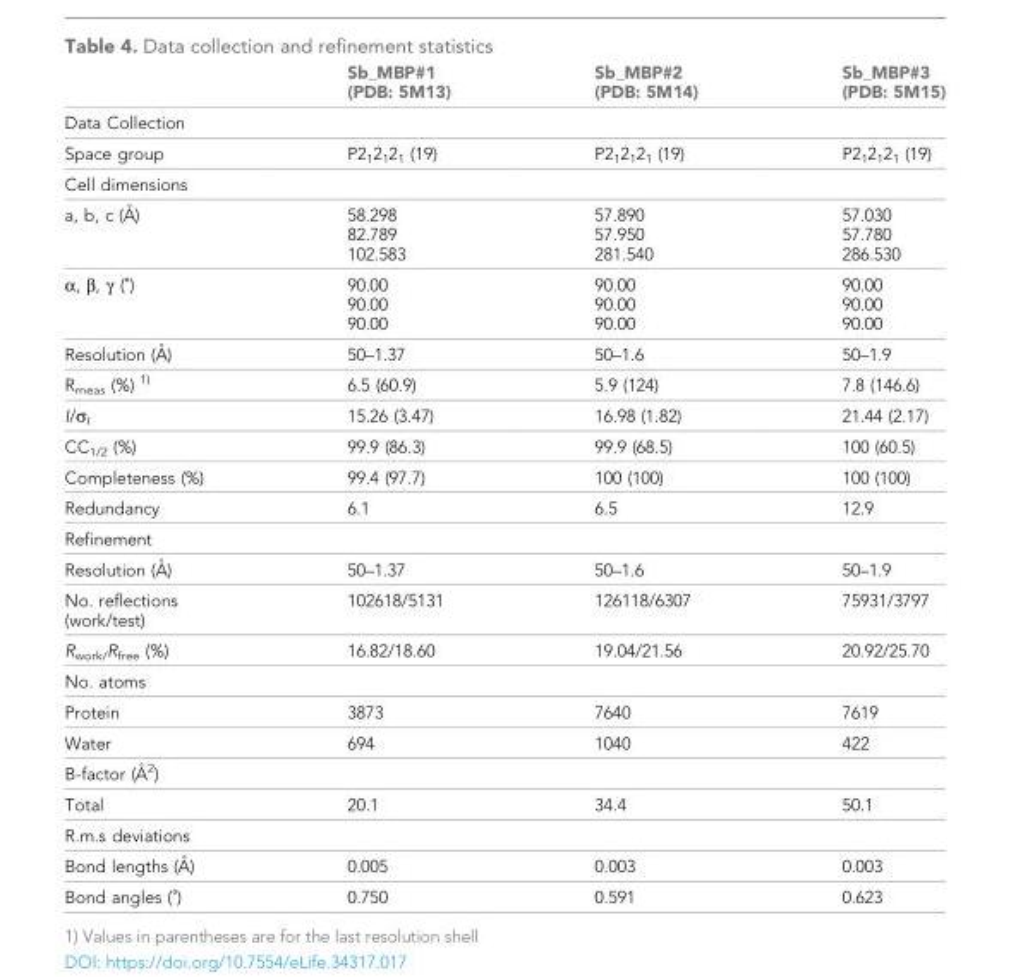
<table><thead><tr><td></td><td>Sb_MBP#1 (PDB: 5M13)</td><td>Sb_MBP#2 (PDB: 5M14)</td><td>Sb_MBP#3 (PDB: 5M15)</td></tr></thead><tbody><tr><td colspan="4">Data Collection</td></tr><tr><td>Space group</td><td>P2<sub>1</sub>2<sub>1</sub>2<sub>1</sub> (19)</td><td>P2<sub>1</sub>2<sub>1</sub>2<sub>1</sub> (19)</td><td>P2<sub>1</sub>2<sub>1</sub>2<sub>1</sub> (19)</td></tr><tr><td colspan="4">Cell dimensions</td></tr><tr><td>a, b, c (A˚ )</td><td>58.298 82.789 102.583</td><td>57.890 57.950 281.540</td><td>57.030 57.780 286.530</td></tr><tr><td>α, β, γ (˚)</td><td>90.00 90.00 90.00</td><td>90.00 90.00 90.00</td><td>90.00 90.00 90.00</td></tr><tr><td>Resolution (A˚ )</td><td>50–1.37</td><td>50–1.6</td><td>50–1.9</td></tr><tr><td>R<sub>meas</sub> (%) <sup>1)</sup></td><td>6.5 (60.9)</td><td>5.9 (124)</td><td>7.8 (146.6)</td></tr><tr><td>I/σ<sub>I</sub></td><td>15.26 (3.47)</td><td>16.98 (1.82)</td><td>21.44 (2.17)</td></tr><tr><td>CC<sub>1/2</sub> (%)</td><td>99.9 (86.3)</td><td>99.9 (68.5)</td><td>100 (60.5)</td></tr><tr><td>Completeness (%)</td><td>99.4 (97.7)</td><td>100 (100)</td><td>100 (100)</td></tr><tr><td>Redundancy</td><td>6.1</td><td>6.5</td><td>12.9</td></tr><tr><td colspan="4">Refinement</td></tr><tr><td>Resolution (A˚ )</td><td>50–1.37</td><td>50–1.6</td><td>50–1.9</td></tr><tr><td>No. reflections (work/test)</td><td>102618/5131</td><td>126118/6307</td><td>75931/3797</td></tr><tr><td>R<sub>work/</sub>R<sub>free</sub> (%)</td><td>16.82/18.60</td><td>19.04/21.56</td><td>20.92/25.70</td></tr><tr><td colspan="4">No. atoms</td></tr><tr><td>Protein</td><td>3873</td><td>7640</td><td>7619</td></tr><tr><td>Water</td><td>694</td><td>1040</td><td>422</td></tr><tr><td colspan="4">B-factor (A˚ 2)</td></tr><tr><td>Total</td><td>20.1</td><td>34.4</td><td>50.1</td></tr><tr><td colspan="4">R.m.s deviations</td></tr><tr><td>Bond lengths (A˚ )</td><td>0.005</td><td>0.003</td><td>0.003</td></tr><tr><td>Bond angles (˚)</td><td>0.750</td><td>0.591</td><td>0.623</td></tr></tbody></table>